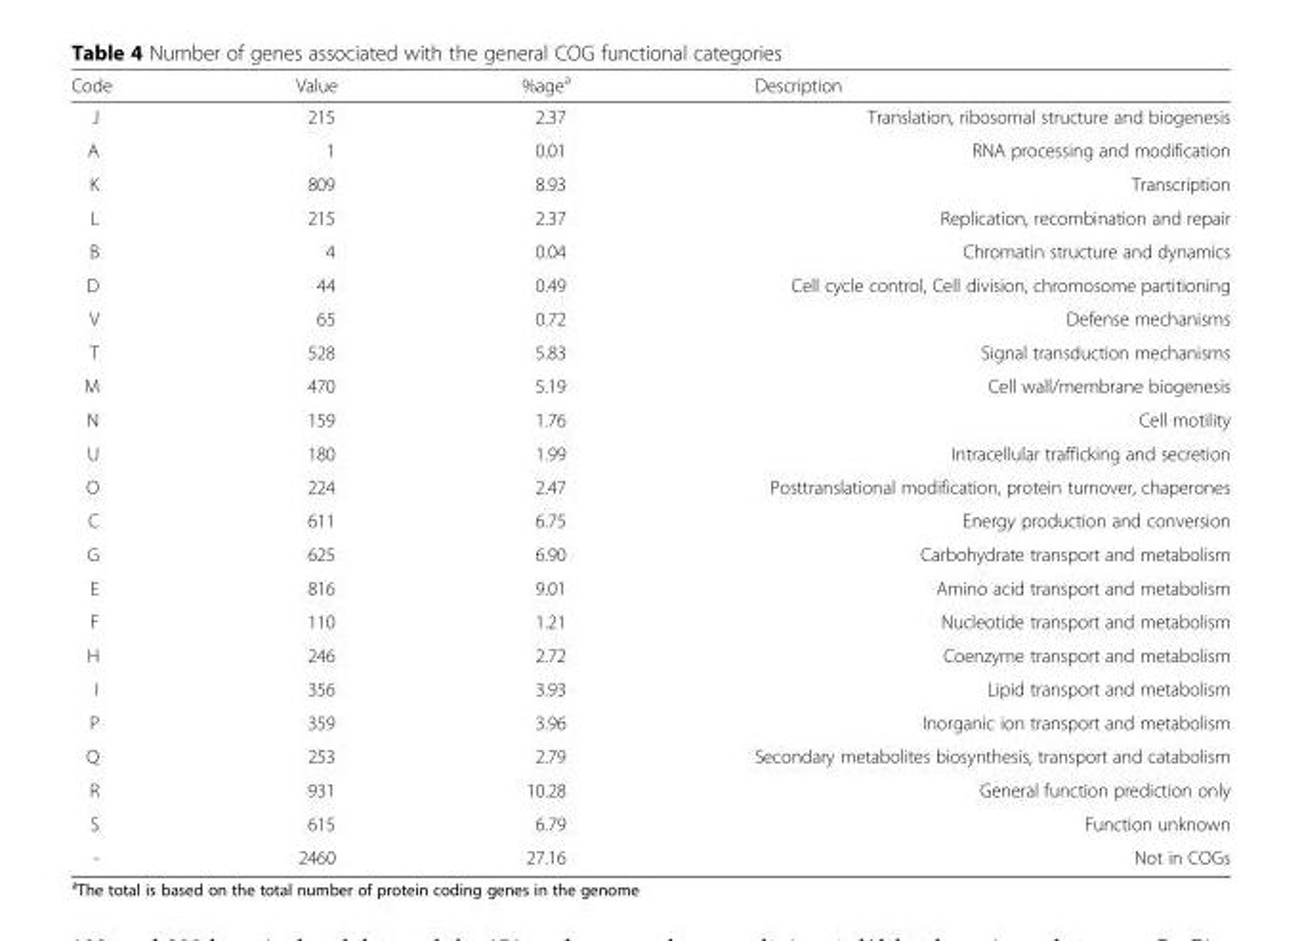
<table><thead><tr><td>Code</td><td>Value</td><td>%age<sup>a</sup></td><td>Description</td></tr></thead><tbody><tr><td>J</td><td>215</td><td>2.37</td><td>Translation, ribosomal structure and biogenesis</td></tr><tr><td>A</td><td>1</td><td>0.01</td><td>RNA processing and modification</td></tr><tr><td>K</td><td>809</td><td>8.93</td><td>Transcription</td></tr><tr><td>L</td><td>215</td><td>2.37</td><td>Replication, recombination and repair</td></tr><tr><td>B</td><td>4</td><td>0.04</td><td>Chromatin structure and dynamics</td></tr><tr><td>D</td><td>44</td><td>0.49</td><td>Cell cycle control, Cell division, chromosome partitioning</td></tr><tr><td>V</td><td>65</td><td>0.72</td><td>Defense mechanisms</td></tr><tr><td>T</td><td>528</td><td>5.83</td><td>Signal transduction mechanisms</td></tr><tr><td>M</td><td>470</td><td>5.19</td><td>Cell wall/membrane biogenesis</td></tr><tr><td>N</td><td>159</td><td>1.76</td><td>Cell motility</td></tr><tr><td>U</td><td>180</td><td>1.99</td><td>Intracellular trafficking and secretion</td></tr><tr><td>O</td><td>224</td><td>2.47</td><td>Posttranslational modification, protein turnover, chaperones</td></tr><tr><td>C</td><td>611</td><td>6.75</td><td>Energy production and conversion</td></tr><tr><td>G</td><td>625</td><td>6.90</td><td>Carbohydrate transport and metabolism</td></tr><tr><td>E</td><td>816</td><td>9.01</td><td>Amino acid transport and metabolism</td></tr><tr><td>F</td><td>110</td><td>1.21</td><td>Nucleotide transport and metabolism</td></tr><tr><td>H</td><td>246</td><td>2.72</td><td>Coenzyme transport and metabolism</td></tr><tr><td>I</td><td>356</td><td>3.93</td><td>Lipid transport and metabolism</td></tr><tr><td>P</td><td>359</td><td>3.96</td><td>Inorganic ion transport and metabolism</td></tr><tr><td>Q</td><td>253</td><td>2.79</td><td>Secondary metabolites biosynthesis, transport and catabolism</td></tr><tr><td>R</td><td>931</td><td>10.28</td><td>General function prediction only</td></tr><tr><td>S</td><td>615</td><td>6.79</td><td>Function unknown</td></tr><tr><td>-</td><td>2460</td><td>27.16</td><td>Not in COGs</td></tr></tbody></table>